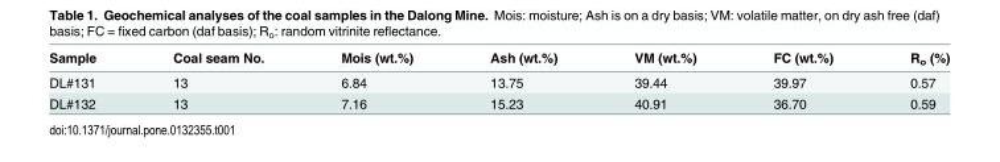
<table><thead><tr><td>Sample</td><td>Coal seam No.</td><td>Mois (wt.%)</td><td>Ash (wt.%)</td><td>VM (wt.%)</td><td>FC (wt.%)</td><td>R<sub>o</sub> (%)</td></tr></thead><tbody><tr><td>DL#131</td><td>13</td><td>6.84</td><td>13.75</td><td>39.44</td><td>39.97</td><td>0.57</td></tr><tr><td>DL#132</td><td>13</td><td>7.16</td><td>15.23</td><td>40.91</td><td>36.70</td><td>0.59</td></tr></tbody></table>